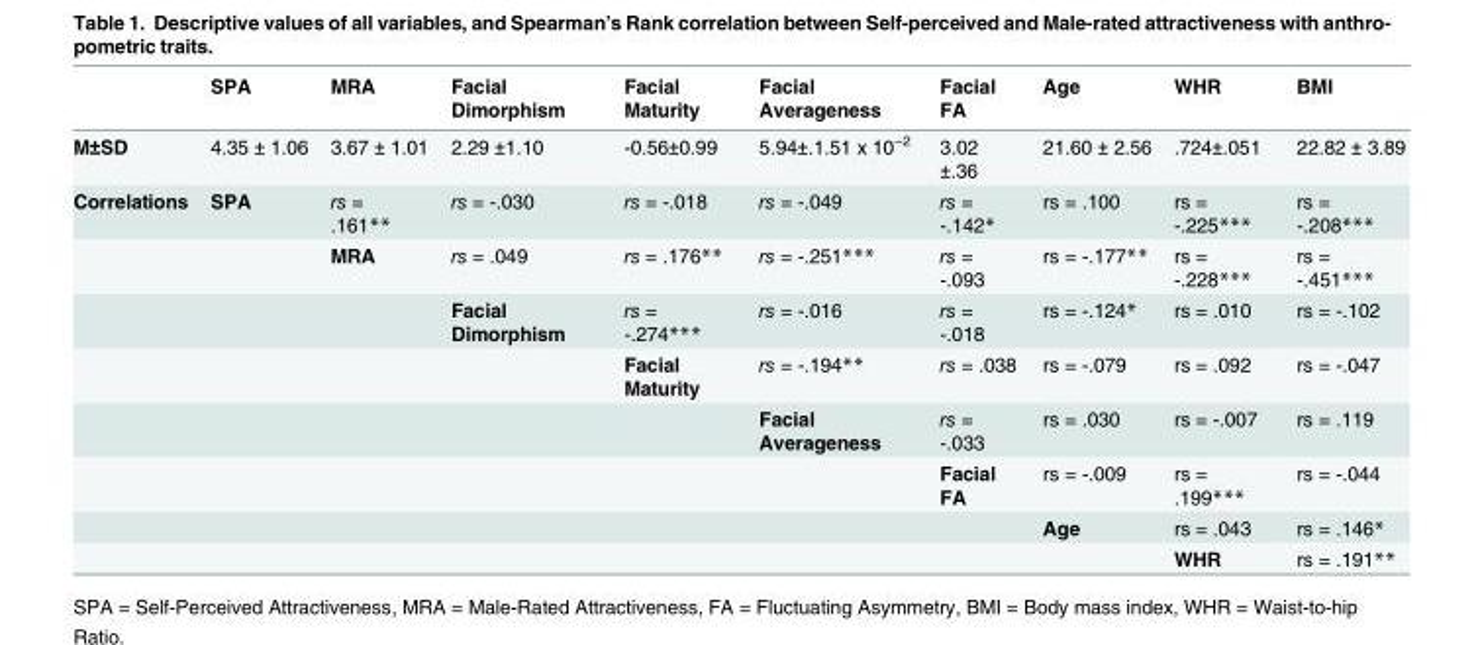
<table><thead><tr><td></td><td>SPA</td><td>MRA</td><td>Facial Dimorphism</td><td>Facial Maturity</td><td>Facial Averageness</td><td>Facial FA</td><td>Age</td><td>WHR</td><td>BMI</td></tr></thead><tbody><tr><td>M±SD</td><td>4.35 ± 1.06</td><td>3.67 ± 1.01</td><td>2.29 ±1.10</td><td>-0.56±0.99</td><td>5.94±.1.51 x 10<sup>−2</sup></td><td>3.02 ±.36</td><td>21.60 ± 2.56</td><td>.724±.051</td><td>22.82 ± 3.89</td></tr><tr><td rowspan="8">Correlations</td><td>SPA</td><td>rs = .161**</td><td>rs = -.030</td><td>rs = -.018</td><td>rs = -.049</td><td>rs = -.142*</td><td>rs = .100</td><td>rs = -.225***</td><td>rs = -.208***</td></tr><tr><td></td><td>MRA</td><td>rs = .049</td><td>rs = .176**</td><td>rs = -.251***</td><td>rs = -.093</td><td>rs = -.177**</td><td>rs = -.228***</td><td>rs = -.451***</td></tr><tr><td></td><td></td><td>Facial Dimorphism</td><td>rs = -.274***</td><td>rs = -.016</td><td>rs = -.018</td><td>rs = -.124*</td><td>rs = .010</td><td>rs = -.102</td></tr><tr><td></td><td></td><td></td><td>Facial Maturity</td><td>rs = -.194**</td><td>rs = .038</td><td>rs = -.079</td><td>rs = .092</td><td>rs = -.047</td></tr><tr><td></td><td></td><td></td><td></td><td>Facial Averageness</td><td>rs = -.033</td><td>rs = .030</td><td>rs = -.007</td><td>rs = .119</td></tr><tr><td></td><td></td><td></td><td></td><td></td><td>Facial FA</td><td>rs = -.009</td><td>rs = .199***</td><td>rs = -.044</td></tr><tr><td></td><td></td><td></td><td></td><td></td><td></td><td>Age</td><td>rs = .043</td><td>rs = .146*</td></tr><tr><td></td><td></td><td></td><td></td><td></td><td></td><td></td><td>WHR</td><td>rs = .191**</td></tr></tbody></table>